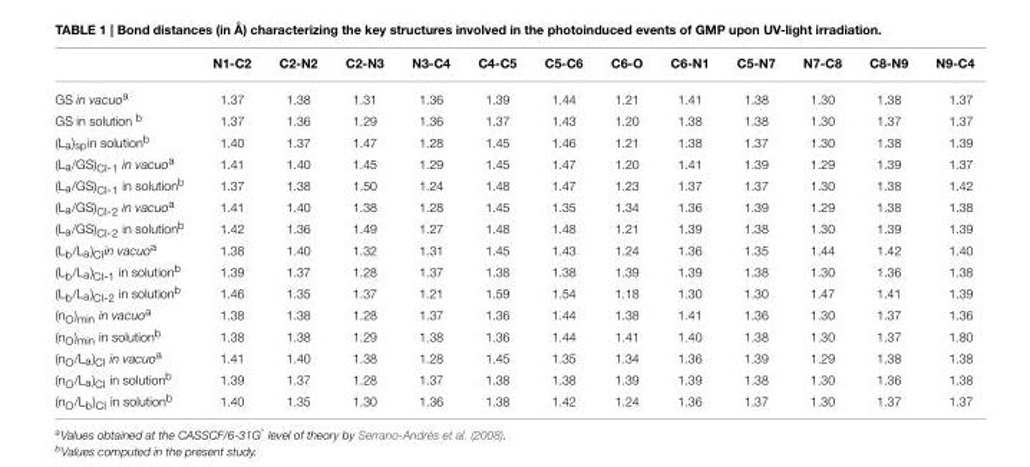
<table><thead><tr><td></td><td>N1-C2</td><td>C2-N2</td><td>C2-N3</td><td>N3-C4</td><td>C4-C5</td><td>C5-C6</td><td>C6-O</td><td>C6-N1</td><td>C5-N7</td><td>N7-C8</td><td>C8-N9</td><td>N9-C4</td></tr></thead><tbody><tr><td>GS in vacuo<sup>a</sup></td><td>1.37</td><td>1.38</td><td>1.31</td><td>1.36</td><td>1.39</td><td>1.44</td><td>1.21</td><td>1.41</td><td>1.38</td><td>1.30</td><td>1.38</td><td>1.37</td></tr><tr><td>GS in solution <sup>b</sup></td><td>1.37</td><td>1.36</td><td>1.29</td><td>1.36</td><td>1.37</td><td>1.43</td><td>1.20</td><td>1.38</td><td>1.38</td><td>1.30</td><td>1.37</td><td>1.37</td></tr><tr><td>(L<sub>a</sub>)<sub>sp</sub>in solution<sup>b</sup></td><td>1.40</td><td>1.37</td><td>1.47</td><td>1.28</td><td>1.45</td><td>1.46</td><td>1.21</td><td>1.38</td><td>1.37</td><td>1.30</td><td>1.38</td><td>1.39</td></tr><tr><td>(L<sub>a</sub>/GS)<sub>CI-1</sub> in vacuo<sup>a</sup></td><td>1.41</td><td>1.40</td><td>1.45</td><td>1.29</td><td>1.45</td><td>1.47</td><td>1.20</td><td>1.41</td><td>1.39</td><td>1.29</td><td>1.39</td><td>1.37</td></tr><tr><td>(L<sub>a</sub>/GS)<sub>CI-1</sub> in solution<sup>b</sup></td><td>1.37</td><td>1.38</td><td>1.50</td><td>1.24</td><td>1.48</td><td>1.47</td><td>1.23</td><td>1.37</td><td>1.37</td><td>1.30</td><td>1.38</td><td>1.42</td></tr><tr><td>(L<sub>a</sub>/GS)<sub>CI-2</sub> in vacuo<sup>a</sup></td><td>1.41</td><td>1.40</td><td>1.38</td><td>1.28</td><td>1.45</td><td>1.35</td><td>1.34</td><td>1.36</td><td>1.39</td><td>1.29</td><td>1.38</td><td>1.38</td></tr><tr><td>(L<sub>a</sub>/GS)<sub>CI-2</sub> in solution<sup>b</sup></td><td>1.42</td><td>1.36</td><td>1.49</td><td>1.27</td><td>1.48</td><td>1.48</td><td>1.21</td><td>1.39</td><td>1.38</td><td>1.30</td><td>1.39</td><td>1.39</td></tr><tr><td>(L<sub>b</sub>/L<sub>a</sub>)<sub>CI</sub>in vacuo<sup>a</sup></td><td>1.38</td><td>1.40</td><td>1.32</td><td>1.31</td><td>1.45</td><td>1.43</td><td>1.24</td><td>1.36</td><td>1.35</td><td>1.44</td><td>1.42</td><td>1.40</td></tr><tr><td>(L<sub>b</sub>/L<sub>a</sub>)<sub>CI-1</sub> in solution<sup>b</sup></td><td>1.39</td><td>1.37</td><td>1.28</td><td>1.37</td><td>1.38</td><td>1.38</td><td>1.39</td><td>1.39</td><td>1.38</td><td>1.30</td><td>1.36</td><td>1.38</td></tr><tr><td>(L<sub>b</sub>/L<sub>a</sub>)<sub>CI-2</sub> in solution<sup>b</sup></td><td>1.46</td><td>1.35</td><td>1.37</td><td>1.21</td><td>1.59</td><td>1.54</td><td>1.18</td><td>1.30</td><td>1.30</td><td>1.47</td><td>1.41</td><td>1.39</td></tr><tr><td>(n<sub>O</sub>)<sub>min</sub> in vacuo<sup>a</sup></td><td>1.38</td><td>1.38</td><td>1.28</td><td>1.37</td><td>1.36</td><td>1.44</td><td>1.38</td><td>1.41</td><td>1.36</td><td>1.30</td><td>1.37</td><td>1.36</td></tr><tr><td>(n<sub>O</sub>)<sub>min</sub> in solution<sup>b</sup></td><td>1.38</td><td>1.38</td><td>1.29</td><td>1.38</td><td>1.36</td><td>1.44</td><td>1.41</td><td>1.40</td><td>1.38</td><td>1.30</td><td>1.37</td><td>1.80</td></tr><tr><td>(n<sub>O</sub>/L<sub>a</sub>)<sub>CI</sub> in vacuo<sup>a</sup></td><td>1.41</td><td>1.40</td><td>1.38</td><td>1.28</td><td>1.45</td><td>1.35</td><td>1.34</td><td>1.36</td><td>1.39</td><td>1.29</td><td>1.38</td><td>1.38</td></tr><tr><td>(n<sub>O</sub>/L<sub>a</sub>)<sub>CI</sub> in solution<sup>b</sup></td><td>1.39</td><td>1.37</td><td>1.28</td><td>1.37</td><td>1.38</td><td>1.38</td><td>1.39</td><td>1.39</td><td>1.38</td><td>1.30</td><td>1.36</td><td>1.38</td></tr><tr><td>(n<sub>O</sub>/L<sub>b</sub>)<sub>CI</sub> in solution<sup>b</sup></td><td>1.40</td><td>1.35</td><td>1.30</td><td>1.36</td><td>1.38</td><td>1.42</td><td>1.24</td><td>1.36</td><td>1.37</td><td>1.30</td><td>1.37</td><td>1.37</td></tr></tbody></table>